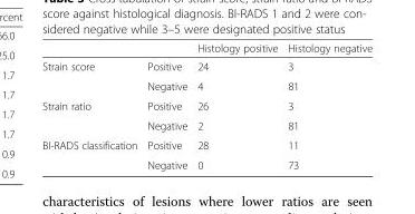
<table><thead><tr><td></td><td></td><td>Histology positive</td><td>Histology negative</td></tr></thead><tbody><tr><td rowspan="2">Strain score</td><td>Positive</td><td>24</td><td>3</td></tr><tr><td>Negative</td><td>4</td><td>81</td></tr><tr><td rowspan="2">Strain ratio</td><td>Positive</td><td>26</td><td>3</td></tr><tr><td>Negative</td><td>2</td><td>81</td></tr><tr><td rowspan="2">BI-RADS classification</td><td>Positive</td><td>28</td><td>11</td></tr><tr><td>Negative</td><td>0</td><td>73</td></tr></tbody></table>